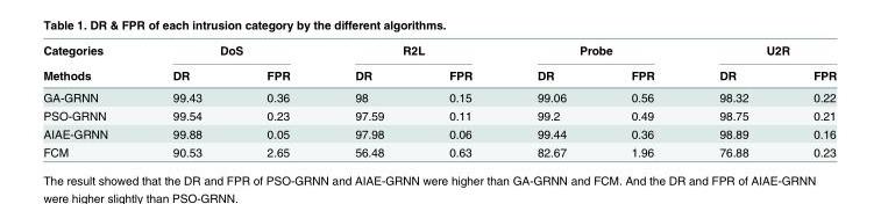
<table><thead><tr><td rowspan="2">Categories Methods</td><td colspan="2">DoS</td><td colspan="2">R2L</td><td colspan="2">Probe</td><td colspan="2">U2R</td></tr><tr><td>DR</td><td>FPR</td><td>DR</td><td>FPR</td><td>DR</td><td>FPR</td><td>DR</td><td>FPR</td></tr></thead><tbody><tr><td>GA-GRNN</td><td>99.43</td><td>0.36</td><td>98</td><td>0.15</td><td>99.06</td><td>0.56</td><td>98.32</td><td>0.22</td></tr><tr><td>PSO-GRNN</td><td>99.54</td><td>0.23</td><td>97.59</td><td>0.11</td><td>99.2</td><td>0.49</td><td>98.75</td><td>0.21</td></tr><tr><td>AIAE-GRNN</td><td>99.88</td><td>0.05</td><td>97.98</td><td>0.06</td><td>99.44</td><td>0.36</td><td>98.89</td><td>0.16</td></tr><tr><td>FCM</td><td>90.53</td><td>2.65</td><td>56.48</td><td>0.63</td><td>82.67</td><td>1.96</td><td>76.88</td><td>0.23</td></tr></tbody></table>